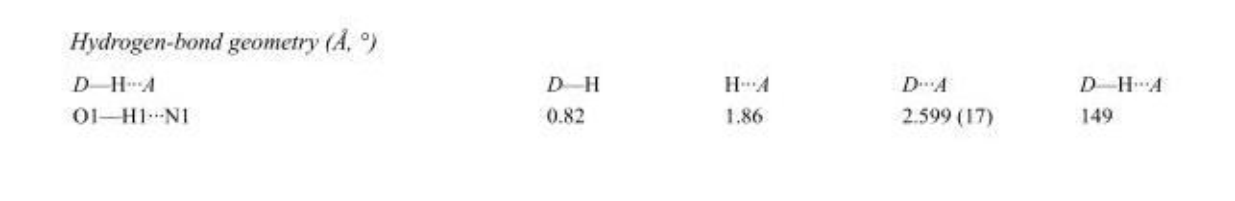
<table><tbody><tr><td>D—H···A</td><td>D—H</td><td>H···A</td><td>D···A</td><td>D—H···A</td></tr><tr><td>O1—H1···N1</td><td>0.82</td><td>1.86</td><td>2.599 (17)</td><td>149</td></tr></tbody></table>